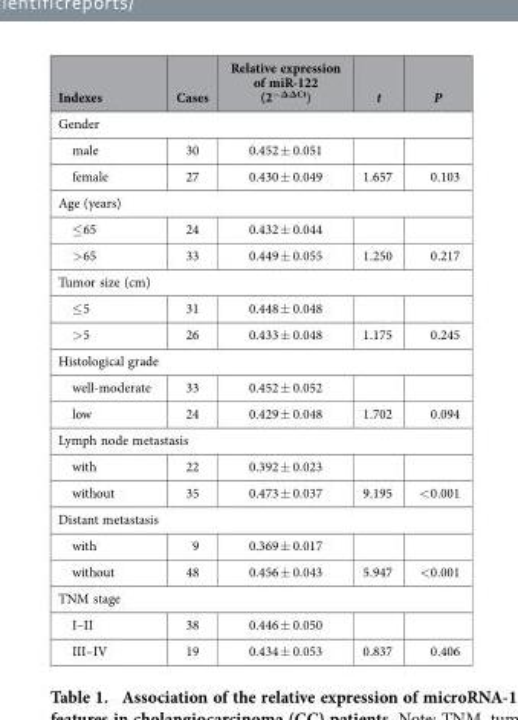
<table><thead><tr><td>Indexes</td><td>Cases</td><td>Relative expression of miR-122 (2<sup>−ΔΔCt</sup>)</td><td>t</td><td>P</td></tr></thead><tbody><tr><td colspan="5">Gender</td></tr><tr><td>male</td><td>30</td><td>0.452 ± 0.051</td><td></td><td></td></tr><tr><td>female</td><td>27</td><td>0.430 ± 0.049</td><td>1.657</td><td>0.103</td></tr><tr><td colspan="5">Age (years)</td></tr><tr><td>≤ 65</td><td>24</td><td>0.432 ± 0.044</td><td></td><td></td></tr><tr><td>&gt; 65</td><td>33</td><td>0.449 ± 0.055</td><td>1.250</td><td>0.217</td></tr><tr><td colspan="5">Tumor size (cm)</td></tr><tr><td>≤ 5</td><td>31</td><td>0.448 ± 0.048</td><td></td><td></td></tr><tr><td>&gt; 5</td><td>26</td><td>0.433 ± 0.048</td><td>1.175</td><td>0.245</td></tr><tr><td colspan="5">Histological grade</td></tr><tr><td>well-moderate</td><td>33</td><td>0.452 ± 0.052</td><td></td><td></td></tr><tr><td>low</td><td>24</td><td>0.429 ± 0.048</td><td>1.702</td><td>0.094</td></tr><tr><td colspan="5">Lymph node metastasis</td></tr><tr><td>with</td><td>22</td><td>0.392 ± 0.023</td><td></td><td></td></tr><tr><td>without</td><td>35</td><td>0.473 ± 0.037</td><td>9.195</td><td>&lt; 0.001</td></tr><tr><td colspan="5">Distant metastasis</td></tr><tr><td>with</td><td>9</td><td>0.369 ± 0.017</td><td></td><td></td></tr><tr><td>without</td><td>48</td><td>0.456 ± 0.043</td><td>5.947</td><td>&lt;0.001</td></tr><tr><td colspan="5">TNM stage</td></tr><tr><td>I–II</td><td>38</td><td>0.446 ± 0.050</td><td></td><td></td></tr><tr><td>III–IV</td><td>19</td><td>0.434 ± 0.053</td><td>0.837</td><td>0.406</td></tr></tbody></table>